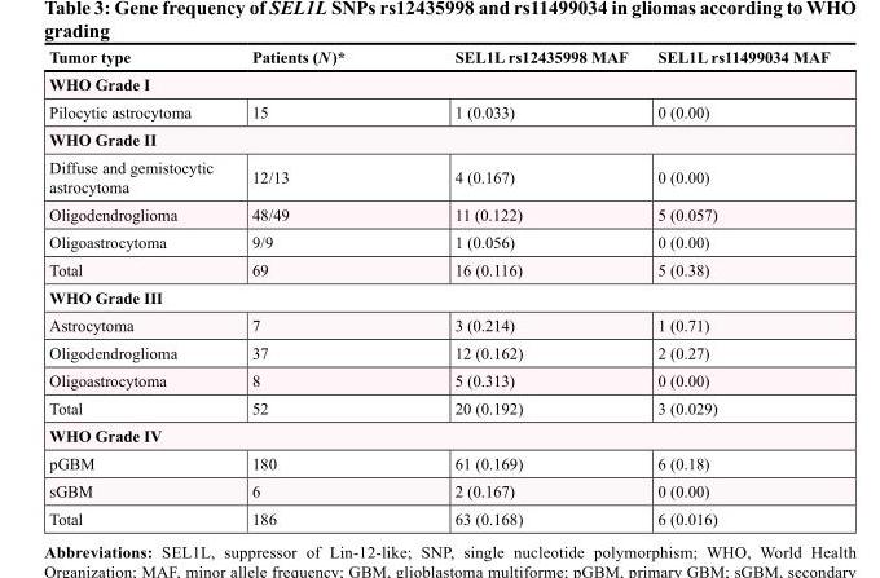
<table><thead><tr><td>Tumor type</td><td>Patients (N )*</td><td>SEL1L rs12435998 MAF</td><td>SEL1L rs11499034 MAF</td></tr></thead><tbody><tr><td colspan="4">WHO Grade I</td></tr><tr><td>Pilocytic astrocytoma</td><td>15</td><td>1 (0.033)</td><td>0 (0.00)</td></tr><tr><td colspan="4">WHO Grade II</td></tr><tr><td>Diffuse and gemistocytic astrocytoma</td><td>12/13</td><td>4 (0.167)</td><td>0 (0.00)</td></tr><tr><td>Oligodendroglioma</td><td>48/49</td><td>11 (0.122)</td><td>5 (0.057)</td></tr><tr><td>Oligoastrocytoma</td><td>9/9</td><td>1 (0.056)</td><td>0 (0.00)</td></tr><tr><td>Total</td><td>69</td><td>16 (0.116)</td><td>5 (0.38)</td></tr><tr><td colspan="4">WHO Grade III</td></tr><tr><td>Astrocytoma</td><td>7</td><td>3 (0.214)</td><td>1 (0.71)</td></tr><tr><td>Oligodendroglioma</td><td>37</td><td>12 (0.162)</td><td>2 (0.27)</td></tr><tr><td>Oligoastrocytoma</td><td>8</td><td>5 (0.313)</td><td>0 (0.00)</td></tr><tr><td>Total</td><td>52</td><td>20 (0.192)</td><td>3 (0.029)</td></tr><tr><td colspan="4">WHO Grade IV</td></tr><tr><td>pGBM</td><td>180</td><td>61 (0.169)</td><td>6 (0.18)</td></tr><tr><td>sGBM</td><td>6</td><td>2 (0.167)</td><td>0 (0.00)</td></tr><tr><td>Total</td><td>186</td><td>63 (0.168)</td><td>6 (0.016)</td></tr></tbody></table>